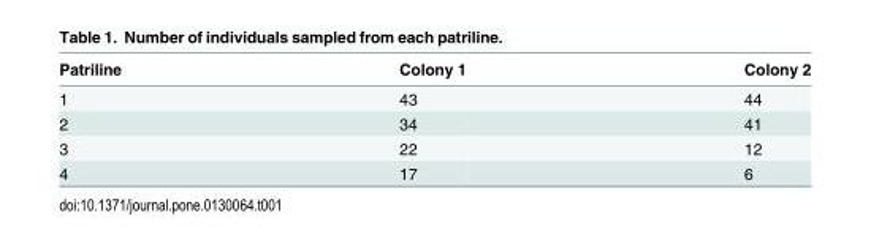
<table><thead><tr><td>Patriline</td><td>Colony 1</td><td>Colony 2</td></tr></thead><tbody><tr><td>1</td><td>43</td><td>44</td></tr><tr><td>2</td><td>34</td><td>41</td></tr><tr><td>3</td><td>22</td><td>12</td></tr><tr><td>4</td><td>17</td><td>6</td></tr></tbody></table>